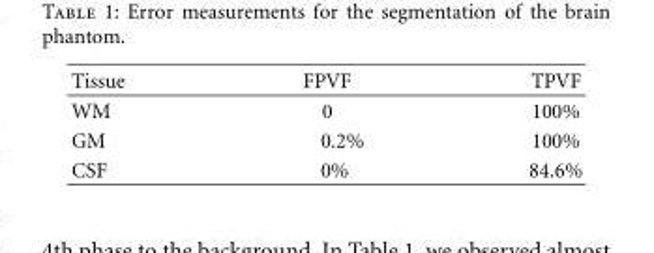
<table><tbody><tr><td>Tissue</td><td>FPVF</td><td>TPVF</td></tr><tr><td>WM</td><td>0</td><td>100%</td></tr><tr><td>GM</td><td>0.2%</td><td>100%</td></tr><tr><td>CSF</td><td>0%</td><td>84.6%</td></tr></tbody></table>